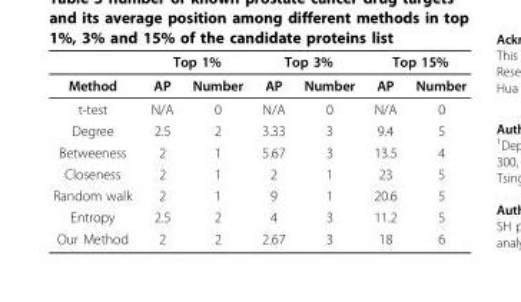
<table><thead><tr><td rowspan="2">Method</td><td colspan="2">Top 1%</td><td colspan="2">Top 3%</td><td colspan="2">Top 15%</td></tr><tr><td>AP</td><td>Number</td><td>AP</td><td>Number</td><td>AP</td><td>Number</td></tr></thead><tbody><tr><td>t-test</td><td>N/A</td><td>0</td><td>N/A</td><td>0</td><td>N/A</td><td>0</td></tr><tr><td>Degree</td><td>2.5</td><td>2</td><td>3.33</td><td>3</td><td>9.4</td><td>5</td></tr><tr><td>Betweeness</td><td>2</td><td>1</td><td>5.67</td><td>3</td><td>13.5</td><td>4</td></tr><tr><td>Closeness</td><td>2</td><td>1</td><td>2</td><td>1</td><td>23</td><td>5</td></tr><tr><td>Random walk</td><td>2</td><td>1</td><td>9</td><td>1</td><td>20.6</td><td>5</td></tr><tr><td>Entropy</td><td>2.5</td><td>2</td><td>4</td><td>3</td><td>11.2</td><td>5</td></tr><tr><td>Our Method</td><td>2</td><td>2</td><td>2.67</td><td>3</td><td>18</td><td>6</td></tr></tbody></table>